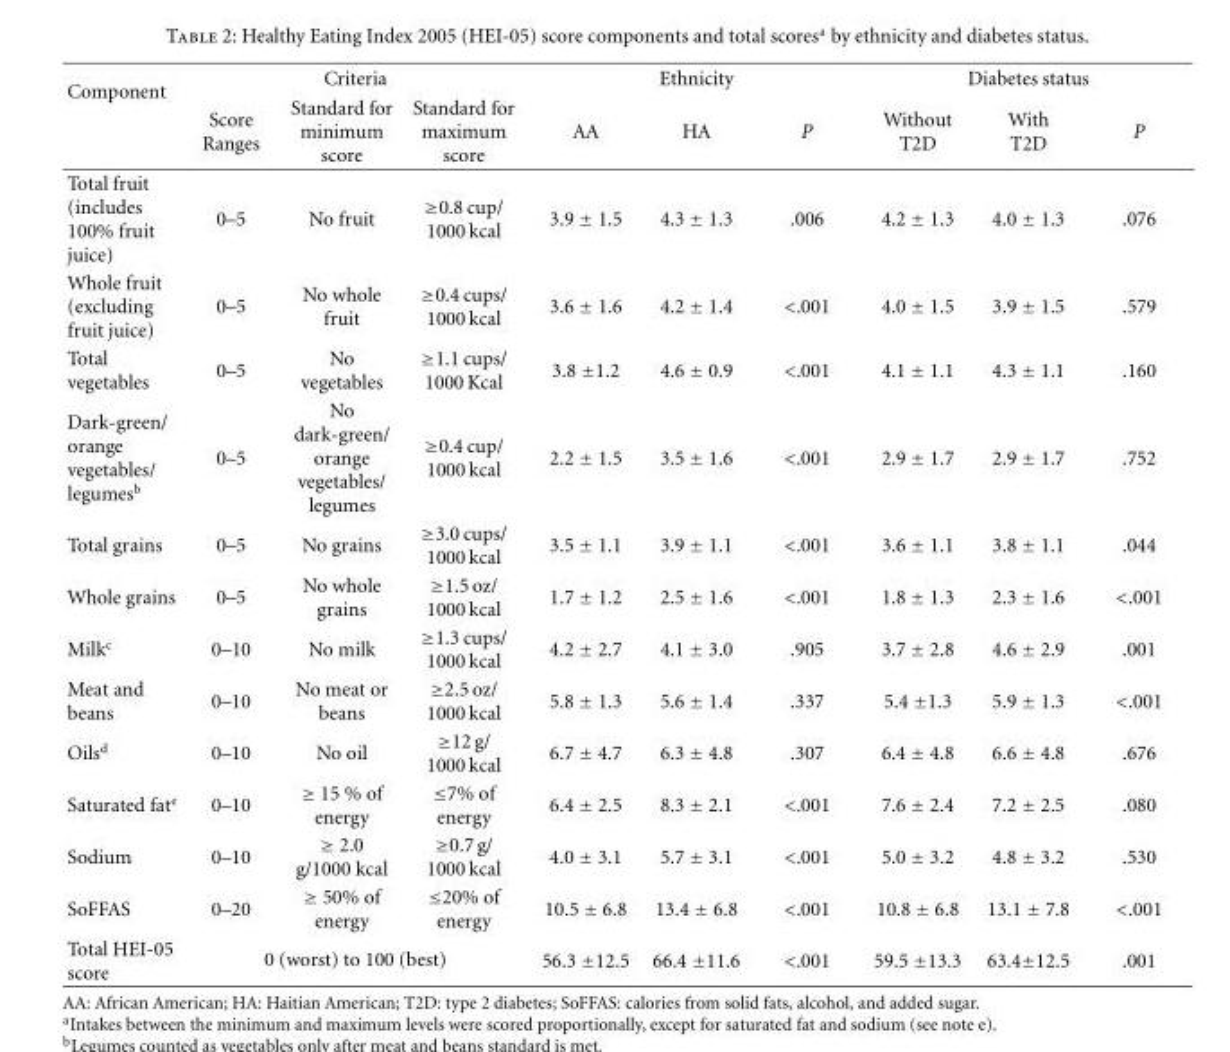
<table><thead><tr><td rowspan="2">Component</td><td colspan="3">Criteria</td><td colspan="3">Ethnicity</td><td colspan="3">Diabetes status</td></tr><tr><td>Score Ranges</td><td>Standard for minimum score</td><td>Standard for maximum score</td><td>AA</td><td>HA</td><td>P</td><td>Without T2D</td><td>With T2D</td><td>P</td></tr></thead><tbody><tr><td>Total fruit (includes 100% fruit juice)</td><td>0–5</td><td>No fruit</td><td>≥0.8 cup/ 1000 kcal</td><td>3.9 ± 1.5</td><td>4.3 ± 1.3</td><td>.006</td><td>4.2 ± 1.3</td><td>4.0 ± 1.3</td><td>.076</td></tr><tr><td>Whole fruit (excluding fruit juice)</td><td>0–5</td><td>No whole fruit</td><td>≥0.4 cups/ 1000 kcal</td><td>3.6 ± 1.6</td><td>4.2 ± 1.4</td><td>&lt;.001</td><td>4.0 ± 1.5</td><td>3.9 ± 1.5</td><td>.579</td></tr><tr><td>Total vegetables</td><td>0–5</td><td>No vegetables</td><td>≥1.1 cups/ 1000 Kcal</td><td>3.8 ±1.2</td><td>4.6 ± 0.9</td><td>&lt;.001</td><td>4.1 ± 1.1</td><td>4.3 ± 1.1</td><td>.160</td></tr><tr><td>Dark-green/ orange vegetables/ legumes<sup>b</sup></td><td>0–5</td><td>No dark-green/ orange vegetables/ legumes</td><td>≥0.4 cup/ 1000 kcal</td><td>2.2 ± 1.5</td><td>3.5 ± 1.6</td><td>&lt;.001</td><td>2.9 ± 1.7</td><td>2.9 ± 1.7</td><td>.752</td></tr><tr><td>Total grains</td><td>0–5</td><td>No grains</td><td>≥3.0 cups/ 1000 kcal</td><td>3.5 ± 1.1</td><td>3.9 ± 1.1</td><td>&lt;.001</td><td>3.6 ± 1.1</td><td>3.8 ± 1.1</td><td>.044</td></tr><tr><td>Whole grains</td><td>0–5</td><td>No whole grains</td><td>≥1.5 oz/ 1000 kcal</td><td>1.7 ± 1.2</td><td>2.5 ± 1.6</td><td>&lt;.001</td><td>1.8 ± 1.3</td><td>2.3 ± 1.6</td><td>&lt;.001</td></tr><tr><td>Milk<sup>c</sup></td><td>0–10</td><td>No milk</td><td>≥1.3 cups/ 1000 kcal</td><td>4.2 ± 2.7</td><td>4.1 ± 3.0</td><td>.905</td><td>3.7 ± 2.8</td><td>4.6 ± 2.9</td><td>.001</td></tr><tr><td>Meat and beans</td><td>0–10</td><td>No meat or beans</td><td>≥2.5 oz/ 1000 kcal</td><td>5.8 ± 1.3</td><td>5.6 ± 1.4</td><td>.337</td><td>5.4 ±1.3</td><td>5.9 ± 1.3</td><td>&lt;.001</td></tr><tr><td>Oils<sup>d</sup></td><td>0–10</td><td>No oil</td><td>≥12 g/ 1000 kcal</td><td>6.7 ± 4.7</td><td>6.3 ± 4.8</td><td>.307</td><td>6.4 ± 4.8</td><td>6.6 ± 4.8</td><td>.676</td></tr><tr><td>Saturated fat<sup>e</sup></td><td>0–10</td><td>≥ 15 % of energy</td><td>≤7% of energy</td><td>6.4 ± 2.5</td><td>8.3 ± 2.1</td><td>&lt;.001</td><td>7.6 ± 2.4</td><td>7.2 ± 2.5</td><td>.080</td></tr><tr><td>Sodium</td><td>0–10</td><td>≥ 2.0 g/1000 kcal</td><td>≥0.7 g/ 1000 kcal</td><td>4.0 ± 3.1</td><td>5.7 ± 3.1</td><td>&lt;.001</td><td>5.0 ± 3.2</td><td>4.8 ± 3.2</td><td>.530</td></tr><tr><td>SoFFAS</td><td>0–20</td><td>≥ 50% of energy</td><td>≤20% of energy</td><td>10.5 ± 6.8</td><td>13.4 ± 6.8</td><td>&lt;.001</td><td>10.8 ± 6.8</td><td>13.1 ± 7.8</td><td>&lt;.001</td></tr><tr><td>Total HEI-05 score</td><td colspan="3">0 (worst) to 100 (best)</td><td>56.3 ±12.5</td><td>66.4 ±11.6</td><td>&lt;.001</td><td>59.5 ±13.3</td><td>63.4±12.5</td><td>.001</td></tr></tbody></table>